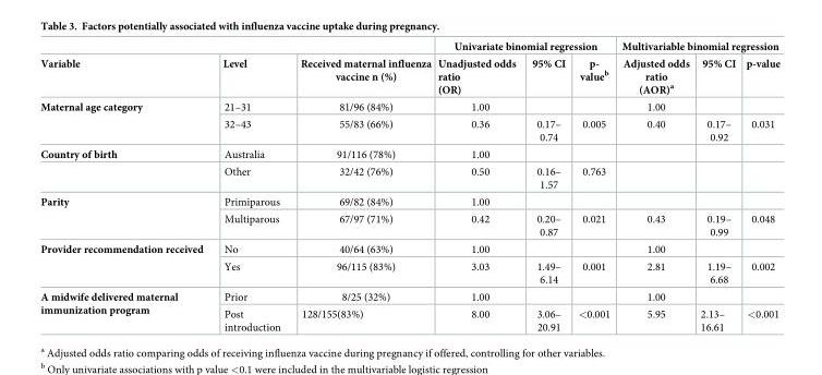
<table><thead><tr><td rowspan="2">Variable</td><td rowspan="2">Level</td><td rowspan="2">Received maternal influenza vaccine n (%)</td><td colspan="3">Univariate binomial regression</td><td colspan="3">Multivariable binomial regression</td></tr><tr><td>Unadjusted odds ratio (OR)</td><td>95% CI</td><td>p- value<sup>b</sup></td><td>Adjusted odds ratio (AOR)<sup>a</sup></td><td>95% CI</td><td>p-value</td></tr></thead><tbody><tr><td rowspan="2">Maternal age category</td><td>21–31</td><td>81/96 (84%)</td><td>1.00</td><td></td><td></td><td>1.00</td><td></td><td></td></tr><tr><td>32–43</td><td>55/83 (66%)</td><td>0.36</td><td>0.17– 0.74</td><td>0.005</td><td>0.40</td><td>0.17– 0.92</td><td>0.031</td></tr><tr><td rowspan="2">Country of birth</td><td>Australia</td><td>91/116 (78%)</td><td>1.00</td><td></td><td></td><td></td><td></td><td></td></tr><tr><td>Other</td><td>32/42 (76%)</td><td>0.50</td><td>0.16– 1.57</td><td>0.763</td><td></td><td></td><td></td></tr><tr><td rowspan="2">Parity</td><td>Primiparous</td><td>69/82 (84%)</td><td>1.00</td><td></td><td></td><td></td><td></td><td></td></tr><tr><td>Multiparous</td><td>67/97 (71%)</td><td>0.42</td><td>0.20– 0.87</td><td>0.021</td><td>0.43</td><td>0.19– 0.99</td><td>0.048</td></tr><tr><td rowspan="2">Provider recommendation received</td><td>No</td><td>40/64 (63%)</td><td>1.00</td><td></td><td></td><td>1.00</td><td></td><td></td></tr><tr><td>Yes</td><td>96/115 (83%)</td><td>3.03</td><td>1.49– 6.14</td><td>0.001</td><td>2.81</td><td>1.19– 6.68</td><td>0.002</td></tr><tr><td rowspan="2">A midwife delivered maternal immunization program</td><td>Prior</td><td>8/25 (32%)</td><td>1.00</td><td></td><td></td><td>1.00</td><td></td><td></td></tr><tr><td>Post introduction</td><td>128/155(83%)</td><td>8.00</td><td>3.06– 20.91</td><td>&lt;0.001</td><td>5.95</td><td>2.13– 16.61</td><td>&lt;0.001</td></tr></tbody></table>